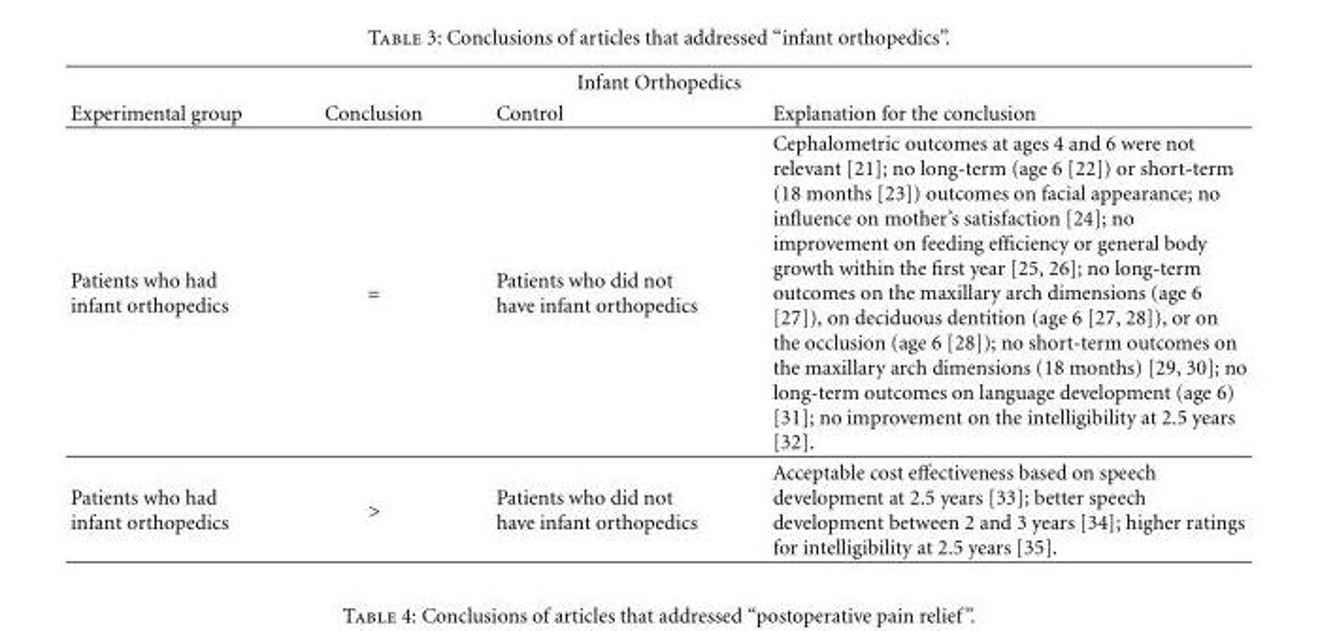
<table><thead><tr><td colspan="4">Infant Orthopedics</td></tr><tr><td>Experimental group</td><td>Conclusion</td><td>Control</td><td>Explanation for the conclusion</td></tr></thead><tbody><tr><td>Patients who had infant orthopedics</td><td>=</td><td>Patients who did not have infant orthopedics</td><td>Cephalometric outcomes at ages 4 and 6 were not relevant [21]; no long-term (age 6 [22]) or short-term (18 months [23]) outcomes on facial appearance; no influence on mother’s satisfaction [24]; no improvement on feeding efficiency or general body growth within the first year [25, 26]; no long-term outcomes on the maxillary arch dimensions (age 6 [27]), on deciduous dentition (age 6 [27, 28]), or on the occlusion (age 6 [28]); no short-term outcomes on the maxillary arch dimensions (18 months) [29, 30]; no long-term outcomes on language development (age 6) [31]; no improvement on the intelligibility at 2.5 years [32].</td></tr><tr><td>Patients who had infant orthopedics</td><td>&gt;</td><td>Patients who did not have infant orthopedics</td><td>Acceptable cost effectiveness based on speech development at 2.5 years [33]; better speech development between 2 and 3 years [34]; higher ratings for intelligibility at 2.5 years [35].</td></tr></tbody></table>